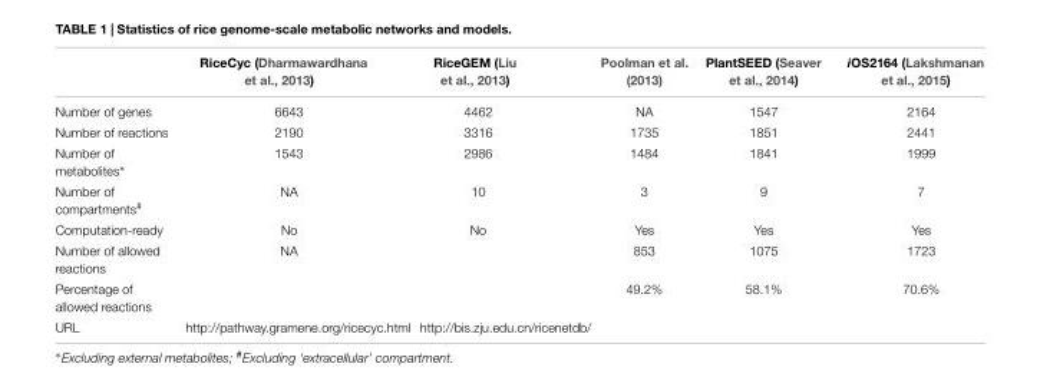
<table><thead><tr><td></td><td>RiceCyc (Dharmawardhana et al., 2013)</td><td>RiceGEM (Liu et al., 2013)</td><td>Poolman et al. (2013)</td><td>PlantSEED (Seaver et al., 2014)</td><td>iOS2164 (Lakshmanan et al., 2015)</td></tr></thead><tbody><tr><td>Number of genes</td><td>6643</td><td>4462</td><td>NA</td><td>1547</td><td>2164</td></tr><tr><td>Number of reactions</td><td>2190</td><td>3316</td><td>1735</td><td>1851</td><td>2441</td></tr><tr><td>Number of metabolites∗</td><td>1543</td><td>2986</td><td>1484</td><td>1841</td><td>1999</td></tr><tr><td>Number of compartments<sup>#</sup></td><td>NA</td><td>10</td><td>3</td><td>9</td><td>7</td></tr><tr><td>Computation-ready</td><td>No</td><td>No</td><td>Yes</td><td>Yes</td><td>Yes</td></tr><tr><td>Number of allowed reactions</td><td>NA</td><td></td><td>853</td><td>1075</td><td>1723</td></tr><tr><td>Percentage of allowed reactions</td><td></td><td></td><td>49.2%</td><td>58.1%</td><td>70.6%</td></tr><tr><td>URL</td><td>http://pathway.gramene.org/ricecyc.html</td><td>http://bis.zju.edu.cn/ricenetdb/</td><td></td><td></td><td></td></tr></tbody></table>